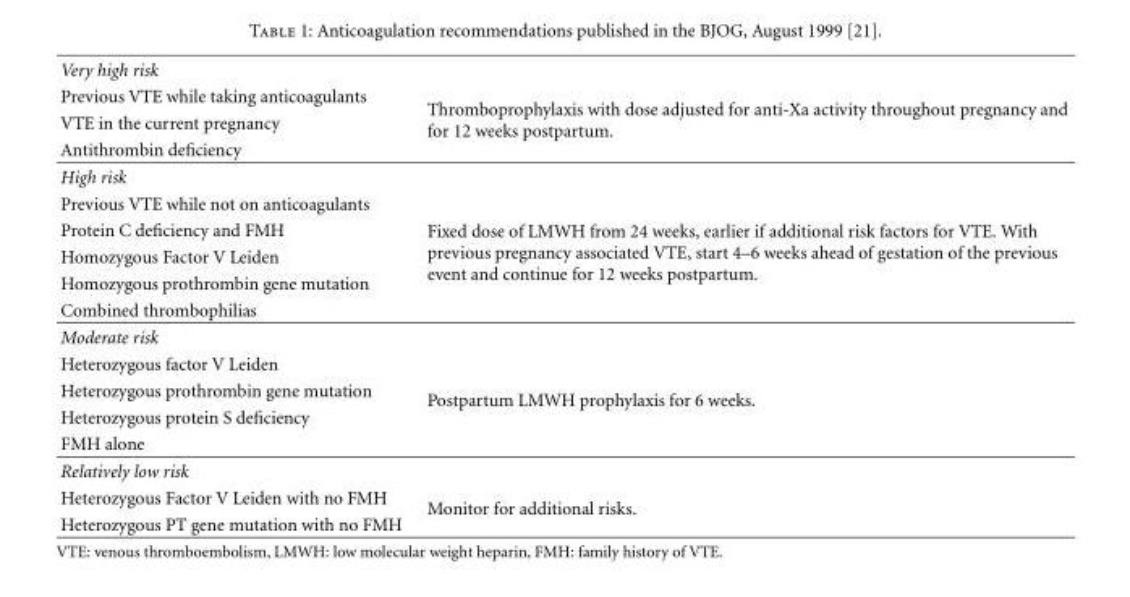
<table><tbody><tr><td colspan="2">Very high risk</td></tr><tr><td>Previous VTE while taking anticoagulants</td><td rowspan="3">Thromboprophylaxis with dose adjusted for anti-Xa activity throughout pregnancy and for 12 weeks postpartum.</td></tr><tr><td>VTE in the current pregnancy</td></tr><tr><td>Antithrombin deficiency</td></tr><tr><td colspan="2">High risk</td></tr><tr><td>Previous VTE while not on anticoagulants</td><td rowspan="5">Fixed dose of LMWH from 24 weeks, earlier if additional risk factors for VTE. With previous pregnancy associated VTE, start 4–6 weeks ahead of gestation of the previous event and continue for 12 weeks postpartum.</td></tr><tr><td>Protein C deficiency and FMH</td></tr><tr><td>Homozygous Factor V Leiden</td></tr><tr><td>Homozygous prothrombin gene mutation</td></tr><tr><td>Combined thrombophilias</td></tr><tr><td colspan="2">Moderate risk</td></tr><tr><td>Heterozygous factor V Leiden</td><td rowspan="4">Postpartum LMWH prophylaxis for 6 weeks.</td></tr><tr><td>Heterozygous prothrombin gene mutation</td></tr><tr><td>Heterozygous protein S deficiency</td></tr><tr><td>FMH alone</td></tr><tr><td colspan="2">Relatively low risk</td></tr><tr><td>Heterozygous Factor V Leiden with no FMH</td><td rowspan="2">Monitor for additional risks.</td></tr><tr><td>Heterozygous PT gene mutation with no FMH</td></tr></tbody></table>